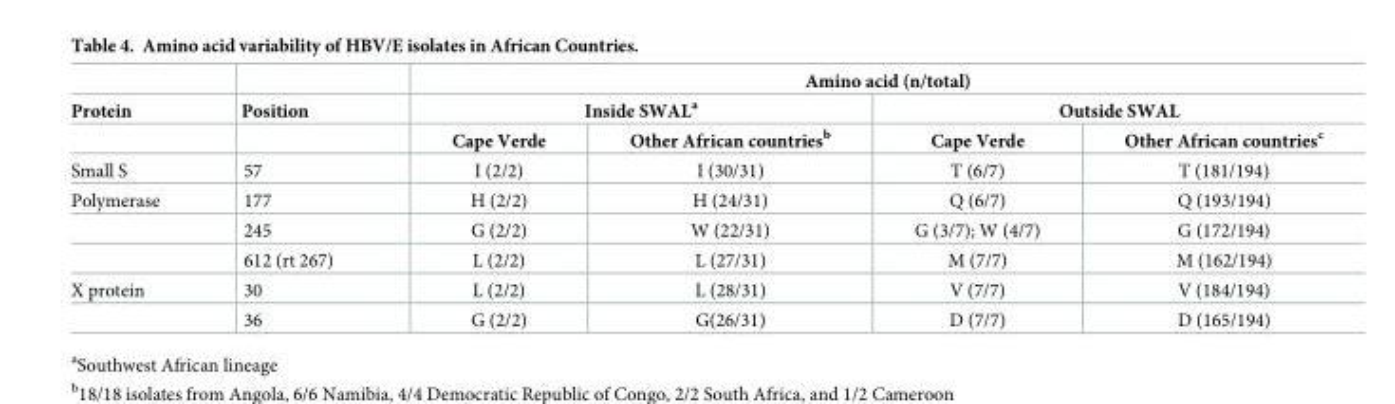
<table><thead><tr><td rowspan="3">Protein</td><td rowspan="3">Position</td><td colspan="4">Amino acid (n/total)</td></tr><tr><td colspan="2">Inside SWAL<sup>a</sup></td><td colspan="2">Outside SWAL</td></tr><tr><td>Cape Verde</td><td>Other African countries<sup>b</sup></td><td>Cape Verde</td><td>Other African countries<sup>c</sup></td></tr></thead><tbody><tr><td>Small S</td><td>57</td><td>I (2/2)</td><td>I (30/31)</td><td>T (6/7)</td><td>T (181/194)</td></tr><tr><td rowspan="3">Polymerase</td><td>177</td><td>H (2/2)</td><td>H (24/31)</td><td>Q (6/7)</td><td>Q (193/194)</td></tr><tr><td>245</td><td>G (2/2)</td><td>W (22/31)</td><td>G (3/7); W (4/7)</td><td>G (172/194)</td></tr><tr><td>612 (rt 267)</td><td>L (2/2)</td><td>L (27/31)</td><td>M (7/7)</td><td>M (162/194)</td></tr><tr><td rowspan="2">X protein</td><td>30</td><td>L (2/2)</td><td>L (28/31)</td><td>V (7/7)</td><td>V (184/194)</td></tr><tr><td>36</td><td>G (2/2)</td><td>G(26/31)</td><td>D (7/7)</td><td>D (165/194)</td></tr></tbody></table>